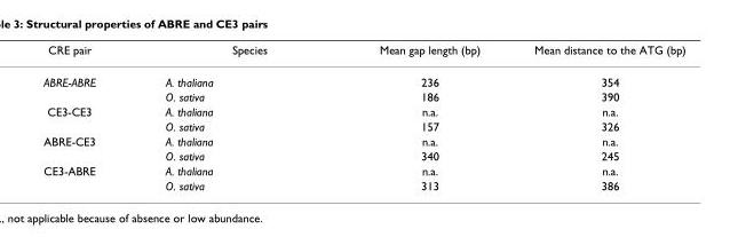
<table><thead><tr><td>CRE pair</td><td>Species</td><td>Mean gap length (bp)</td><td>Mean distance to the ATG (bp)</td></tr></thead><tbody><tr><td rowspan="2">ABRE-ABRE</td><td>A. thaliana</td><td>236</td><td>354</td></tr><tr><td>O. sativa</td><td>186</td><td>390</td></tr><tr><td rowspan="2">CE3-CE3</td><td>A. thaliana</td><td>n.a.</td><td>n.a.</td></tr><tr><td>O. sativa</td><td>157</td><td>326</td></tr><tr><td rowspan="2">ABRE-CE3</td><td>A. thaliana</td><td>n.a.</td><td>n.a.</td></tr><tr><td>O. sativa</td><td>340</td><td>245</td></tr><tr><td rowspan="2">CE3-ABRE</td><td>A. thaliana</td><td>n.a.</td><td>n.a.</td></tr><tr><td>O. sativa</td><td>313</td><td>386</td></tr></tbody></table>